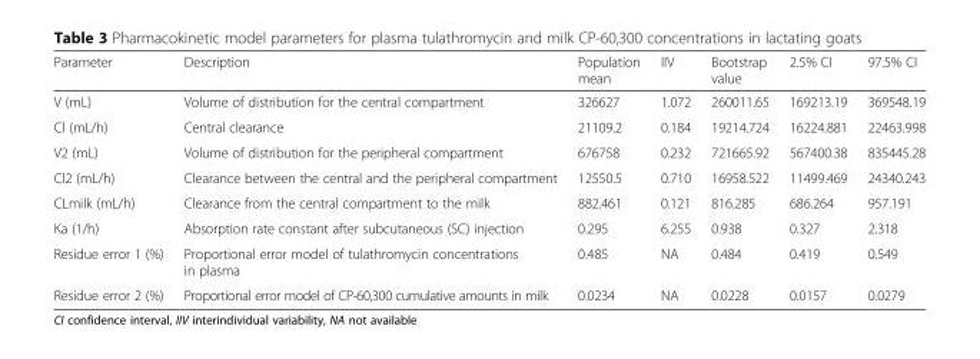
<table><thead><tr><td>Parameter</td><td>Description</td><td>Population mean</td><td>IIV</td><td>Bootstrap value</td><td>2.5% CI</td><td>97.5% CI</td></tr></thead><tbody><tr><td>V (mL)</td><td>Volume of distribution for the central compartment</td><td>326627</td><td>1.072</td><td>260011.65</td><td>169213.19</td><td>369548.19</td></tr><tr><td>Cl (mL/h)</td><td>Central clearance</td><td>21109.2</td><td>0.184</td><td>19214.724</td><td>16224.881</td><td>22463.998</td></tr><tr><td>V2 (mL)</td><td>Volume of distribution for the peripheral compartment</td><td>676758</td><td>0.232</td><td>721665.92</td><td>567400.38</td><td>835445.28</td></tr><tr><td>Cl2 (mL/h)</td><td>Clearance between the central and the peripheral compartment</td><td>12550.5</td><td>0.710</td><td>16958.522</td><td>11499.469</td><td>24340.243</td></tr><tr><td>CLmilk (mL/h)</td><td>Clearance from the central compartment to the milk</td><td>882.461</td><td>0.121</td><td>816.285</td><td>686.264</td><td>957.191</td></tr><tr><td>Ka (1/h)</td><td>Absorption rate constant after subcutaneous (SC) injection</td><td>0.295</td><td>6.255</td><td>0.938</td><td>0.327</td><td>2.318</td></tr><tr><td>Residue error 1 (%)</td><td>Proportional error model of tulathromycin concentrations in plasma</td><td>0.485</td><td>NA</td><td>0.484</td><td>0.419</td><td>0.549</td></tr><tr><td>Residue error 2 (%)</td><td>Proportional error model of CP-60,300 cumulative amounts in milk</td><td>0.0234</td><td>NA</td><td>0.0228</td><td>0.0157</td><td>0.0279</td></tr></tbody></table>